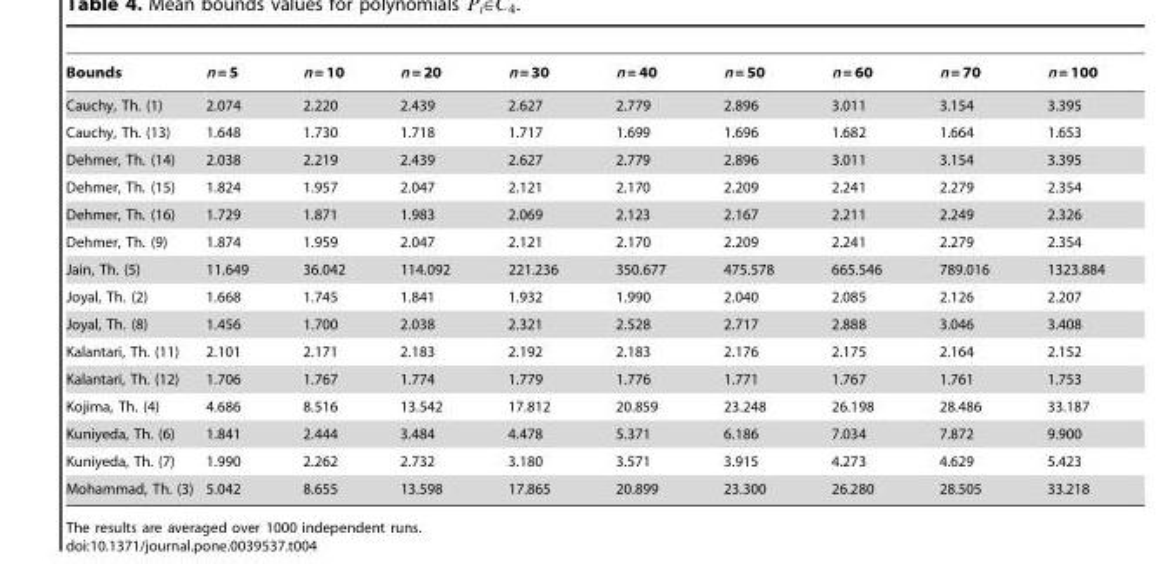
<table><thead><tr><td>Bounds</td><td>n = 5</td><td>n = 10</td><td>n = 20</td><td>n = 30</td><td>n = 40</td><td>n = 50</td><td>n = 60</td><td>n = 70</td><td>n = 100</td></tr></thead><tbody><tr><td>Cauchy, Th. (1)</td><td>2.074</td><td>2.220</td><td>2.439</td><td>2.627</td><td>2.779</td><td>2.896</td><td>3.011</td><td>3.154</td><td>3.395</td></tr><tr><td>Cauchy, Th. (13)</td><td>1.648</td><td>1.730</td><td>1.718</td><td>1.717</td><td>1.699</td><td>1.696</td><td>1.682</td><td>1.664</td><td>1.653</td></tr><tr><td>Dehmer, Th. (14)</td><td>2.038</td><td>2.219</td><td>2.439</td><td>2.627</td><td>2.779</td><td>2.896</td><td>3.011</td><td>3.154</td><td>3.395</td></tr><tr><td>Dehmer, Th. (15)</td><td>1.824</td><td>1.957</td><td>2.047</td><td>2.121</td><td>2.170</td><td>2.209</td><td>2.241</td><td>2.279</td><td>2.354</td></tr><tr><td>Dehmer, Th. (16)</td><td>1.729</td><td>1.871</td><td>1.983</td><td>2.069</td><td>2.123</td><td>2.167</td><td>2.211</td><td>2.249</td><td>2.326</td></tr><tr><td>Dehmer, Th. (9)</td><td>1.874</td><td>1.959</td><td>2.047</td><td>2.121</td><td>2.170</td><td>2.209</td><td>2.241</td><td>2.279</td><td>2.354</td></tr><tr><td>Jain, Th. (5)</td><td>11.649</td><td>36.042</td><td>114.092</td><td>221.236</td><td>350.677</td><td>475.578</td><td>665.546</td><td>789.016</td><td>1323.884</td></tr><tr><td>Joyal, Th. (2)</td><td>1.668</td><td>1.745</td><td>1.841</td><td>1.932</td><td>1.990</td><td>2.040</td><td>2.085</td><td>2.126</td><td>2.207</td></tr><tr><td>Joyal, Th. (8)</td><td>1.456</td><td>1.700</td><td>2.038</td><td>2.321</td><td>2.528</td><td>2.717</td><td>2.888</td><td>3.046</td><td>3.408</td></tr><tr><td>Kalantari, Th. (11)</td><td>2.101</td><td>2.171</td><td>2.183</td><td>2.192</td><td>2.183</td><td>2.176</td><td>2.175</td><td>2.164</td><td>2.152</td></tr><tr><td>Kalantari, Th. (12)</td><td>1.706</td><td>1.767</td><td>1.774</td><td>1.779</td><td>1.776</td><td>1.771</td><td>1.767</td><td>1.761</td><td>1.753</td></tr><tr><td>Kojima, Th. (4)</td><td>4.686</td><td>8.516</td><td>13.542</td><td>17.812</td><td>20.859</td><td>23.248</td><td>26.198</td><td>28.486</td><td>33.187</td></tr><tr><td>Kuniyeda, Th. (6)</td><td>1.841</td><td>2.444</td><td>3.484</td><td>4.478</td><td>5.371</td><td>6.186</td><td>7.034</td><td>7.872</td><td>9.900</td></tr><tr><td>Kuniyeda, Th. (7)</td><td>1.990</td><td>2.262</td><td>2.732</td><td>3.180</td><td>3.571</td><td>3.915</td><td>4.273</td><td>4.629</td><td>5.423</td></tr><tr><td>Mohammad, Th. (3)</td><td>5.042</td><td>8.655</td><td>13.598</td><td>17.865</td><td>20.899</td><td>23.300</td><td>26.280</td><td>28.505</td><td>33.218</td></tr></tbody></table>